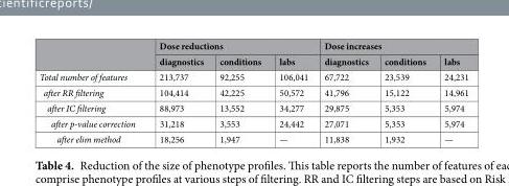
<table><thead><tr><td rowspan="2"></td><td colspan="3">Dose reductions</td><td colspan="3">Dose increases</td></tr><tr><td>diagnostics</td><td>conditions</td><td>labs</td><td>diagnostics</td><td>conditions</td><td>labs</td></tr></thead><tbody><tr><td>Total number of features</td><td>213,737</td><td>92,255</td><td>106,041</td><td>67,722</td><td>23,539</td><td>24,231</td></tr><tr><td>after RR filtering</td><td>104,414</td><td>42,225</td><td>50,572</td><td>41,796</td><td>15,122</td><td>14,961</td></tr><tr><td>after IC filtering</td><td>88,973</td><td>13,552</td><td>34,277</td><td>29,875</td><td>5,353</td><td>5,974</td></tr><tr><td>after p-value correction</td><td>31,218</td><td>3,553</td><td>24,442</td><td>27,071</td><td>5,353</td><td>5,974</td></tr><tr><td>after elim method</td><td>18,256</td><td>1,947</td><td>—</td><td>11,838</td><td>1,932</td><td>—</td></tr></tbody></table>